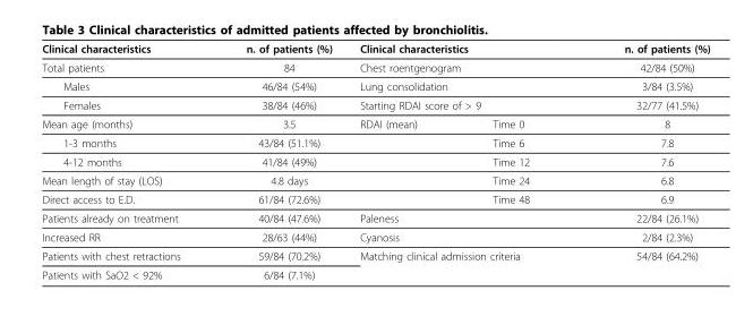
<table><thead><tr><td>Clinical characteristics</td><td>n. of patients (%)</td><td colspan="2">Clinical characteristics</td><td>n. of patients (%)</td></tr></thead><tbody><tr><td>Total patients</td><td>84</td><td colspan="2">Chest roentgenogram</td><td>42/84 (50%)</td></tr><tr><td>Males</td><td>46/84 (54%)</td><td colspan="2">Lung consolidation</td><td>3/84 (3.5%)</td></tr><tr><td>Females</td><td>38/84 (46%)</td><td colspan="2">Starting RDAI score of &gt; 9</td><td>32/77 (41.5%)</td></tr><tr><td>Mean age (months)</td><td>3.5</td><td>RDAI (mean)</td><td>Time 0</td><td>8</td></tr><tr><td>1-3 months</td><td>43/84 (51.1%)</td><td></td><td>Time 6</td><td>7.8</td></tr><tr><td>4-12 months</td><td>41/84 (49%)</td><td></td><td>Time 12</td><td>7.6</td></tr><tr><td>Mean length of stay (LOS)</td><td>4.8 days</td><td></td><td>Time 24</td><td>6.8</td></tr><tr><td>Direct access to E.D.</td><td>61/84 (72.6%)</td><td></td><td>Time 48</td><td>6.9</td></tr><tr><td>Patients already on treatment</td><td>40/84 (47.6%)</td><td colspan="2">Paleness</td><td>22/84 (26.1%)</td></tr><tr><td>Increased RR</td><td>28/63 (44%)</td><td colspan="2">Cyanosis</td><td>2/84 (2.3%)</td></tr><tr><td>Patients with chest retractions</td><td>59/84 (70.2%)</td><td colspan="2">Matching clinical admission criteria</td><td>54/84 (64.2%)</td></tr><tr><td>Patients with SaO2 &lt; 92%</td><td>6/84 (7.1%)</td><td></td><td></td><td></td></tr></tbody></table>